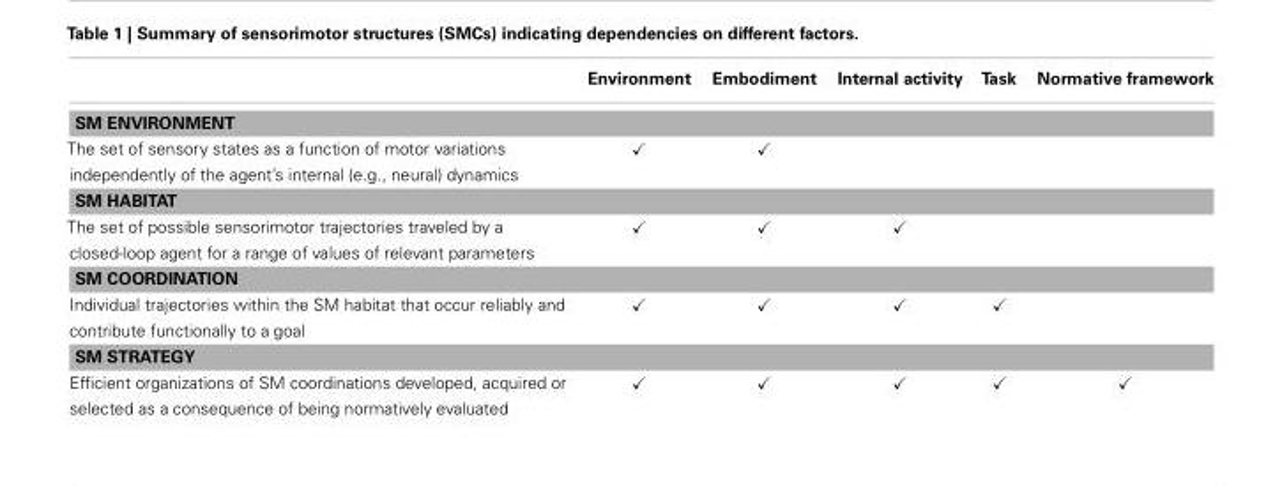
<table><thead><tr><td></td><td>Environment</td><td>Embodiment</td><td>Internal activity</td><td>Task</td><td>Normative framework</td></tr></thead><tbody><tr><td colspan="6">SM ENVIRONMENT</td></tr><tr><td>The set of sensory states as a function of motor variations independently of the agent’s internal (e.g., neural) dynamics</td><td>✓</td><td>✓</td><td></td><td></td><td></td></tr><tr><td colspan="6">SM HABITAT</td></tr><tr><td>The set of possible sensorimotor trajectories traveled by a closed-loop agent for a range of values of relevant parameters</td><td>✓</td><td>✓</td><td>✓</td><td></td><td></td></tr><tr><td colspan="6">SM COORDINATION</td></tr><tr><td>Individual trajectories within the SM habitat that occur reliably and contribute functionally to a goal</td><td>✓</td><td>✓</td><td>✓</td><td>✓</td><td></td></tr><tr><td colspan="6">SM STRATEGY</td></tr><tr><td>Efficient organizations of SM coordinations developed, acquired or selected as a consequence of being normatively evaluated</td><td>✓</td><td>✓</td><td>✓</td><td>✓</td><td>✓</td></tr></tbody></table>